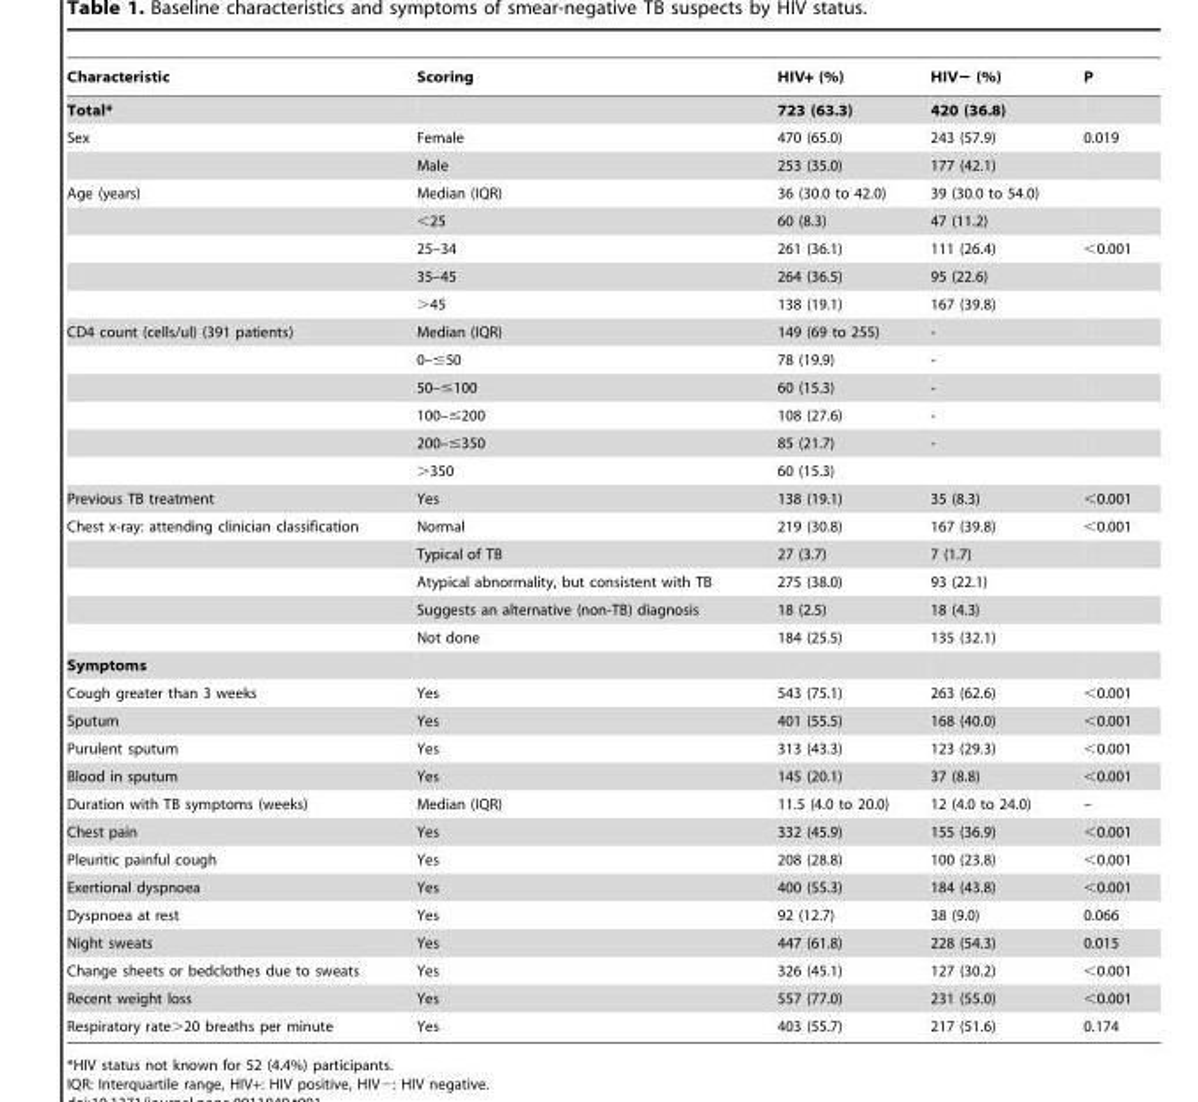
<table><thead><tr><td>Characteristic</td><td>Scoring</td><td>HIV+ (%)</td><td>HIV− (%)</td><td>P</td></tr></thead><tbody><tr><td>Total*</td><td></td><td>723 (63.3)</td><td>420 (36.8)</td><td></td></tr><tr><td rowspan="2">Sex</td><td>Female</td><td>470 (65.0)</td><td>243 (57.9)</td><td>0.019</td></tr><tr><td>Male</td><td>253 (35.0)</td><td>177 (42.1)</td><td></td></tr><tr><td rowspan="5">Age (years)</td><td>Median (IQR)</td><td>36 (30.0 to 42.0)</td><td>39 (30.0 to 54.0)</td><td></td></tr><tr><td>&lt;25</td><td>60 (8.3)</td><td>47 (11.2)</td><td></td></tr><tr><td>25–34</td><td>261 (36.1)</td><td>111 (26.4)</td><td>&lt;0.001</td></tr><tr><td>35–45</td><td>264 (36.5)</td><td>95 (22.6)</td><td></td></tr><tr><td>&gt;45</td><td>138 (19.1)</td><td>167 (39.8)</td><td></td></tr><tr><td rowspan="6">CD4 count (cells/ul) (391 patients)</td><td>Median (IQR)</td><td>149 (69 to 255)</td><td>-</td><td></td></tr><tr><td>0–≤50</td><td>78 (19.9)</td><td>-</td><td></td></tr><tr><td>50–≤100</td><td>60 (15.3)</td><td>-</td><td></td></tr><tr><td>100–≤200</td><td>108 (27.6)</td><td>-</td><td></td></tr><tr><td>200–≤350</td><td>85 (21.7)</td><td>-</td><td></td></tr><tr><td>&gt;350</td><td>60 (15.3)</td><td></td><td></td></tr><tr><td>Previous TB treatment</td><td>Yes</td><td>138 (19.1)</td><td>35 (8.3)</td><td>&lt;0.001</td></tr><tr><td rowspan="5">Chest x-ray: attending clinician classification</td><td>Normal</td><td>219 (30.8)</td><td>167 (39.8)</td><td>&lt;0.001</td></tr><tr><td>Typical of TB</td><td>27 (3.7)</td><td>7 (1.7)</td><td></td></tr><tr><td>Atypical abnormality, but consistent with TB</td><td>275 (38.0)</td><td>93 (22.1)</td><td></td></tr><tr><td>Suggests an alternative (non-TB) diagnosis</td><td>18 (2.5)</td><td>18 (4.3)</td><td></td></tr><tr><td>Not done</td><td>184 (25.5)</td><td>135 (32.1)</td><td></td></tr><tr><td colspan="5">Symptoms</td></tr><tr><td>Cough greater than 3 weeks</td><td>Yes</td><td>543 (75.1)</td><td>263 (62.6)</td><td>&lt;0.001</td></tr><tr><td>Sputum</td><td>Yes</td><td>401 (55.5)</td><td>168 (40.0)</td><td>&lt;0.001</td></tr><tr><td>Purulent sputum</td><td>Yes</td><td>313 (43.3)</td><td>123 (29.3)</td><td>&lt;0.001</td></tr><tr><td>Blood in sputum</td><td>Yes</td><td>145 (20.1)</td><td>37 (8.8)</td><td>&lt;0.001</td></tr><tr><td>Duration with TB symptoms (weeks)</td><td>Median (IQR)</td><td>11.5 (4.0 to 20.0)</td><td>12 (4.0 to 24.0)</td><td>–</td></tr><tr><td>Chest pain</td><td>Yes</td><td>332 (45.9)</td><td>155 (36.9)</td><td>&lt;0.001</td></tr><tr><td>Pleuritic painful cough</td><td>Yes</td><td>208 (28.8)</td><td>100 (23.8)</td><td>&lt;0.001</td></tr><tr><td>Exertional dyspnoea</td><td>Yes</td><td>400 (55.3)</td><td>184 (43.8)</td><td>&lt;0.001</td></tr><tr><td>Dyspnoea at rest</td><td>Yes</td><td>92 (12.7)</td><td>38 (9.0)</td><td>0.066</td></tr><tr><td>Night sweats</td><td>Yes</td><td>447 (61.8)</td><td>228 (54.3)</td><td>0.015</td></tr><tr><td>Change sheets or bedclothes due to sweats</td><td>Yes</td><td>326 (45.1)</td><td>127 (30.2)</td><td>&lt;0.001</td></tr><tr><td>Recent weight loss</td><td>Yes</td><td>557 (77.0)</td><td>231 (55.0)</td><td>&lt;0.001</td></tr><tr><td>Respiratory rate&gt;20 breaths per minute</td><td>Yes</td><td>403 (55.7)</td><td>217 (51.6)</td><td>0.174</td></tr></tbody></table>